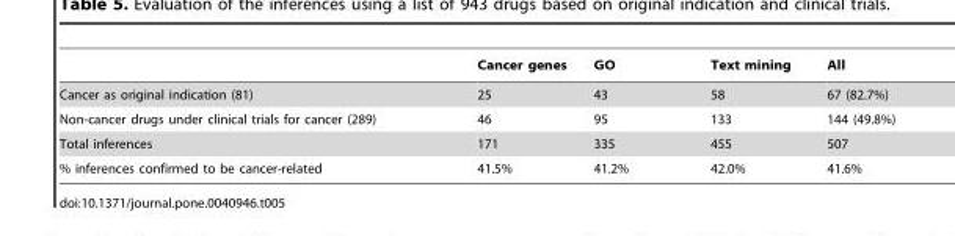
<table><thead><tr><td></td><td>Cancer genes</td><td>GO</td><td>Text mining</td><td>All</td></tr></thead><tbody><tr><td>Cancer as original indication (81)</td><td>25</td><td>43</td><td>58</td><td>67 (82.7%)</td></tr><tr><td>Non-cancer drugs under clinical trials for cancer (289)</td><td>46</td><td>95</td><td>133</td><td>144 (49.8%)</td></tr><tr><td>Total inferences</td><td>171</td><td>335</td><td>455</td><td>507</td></tr><tr><td>% inferences confirmed to be cancer-related</td><td>41.5%</td><td>41.2%</td><td>42.0%</td><td>41.6%</td></tr></tbody></table>